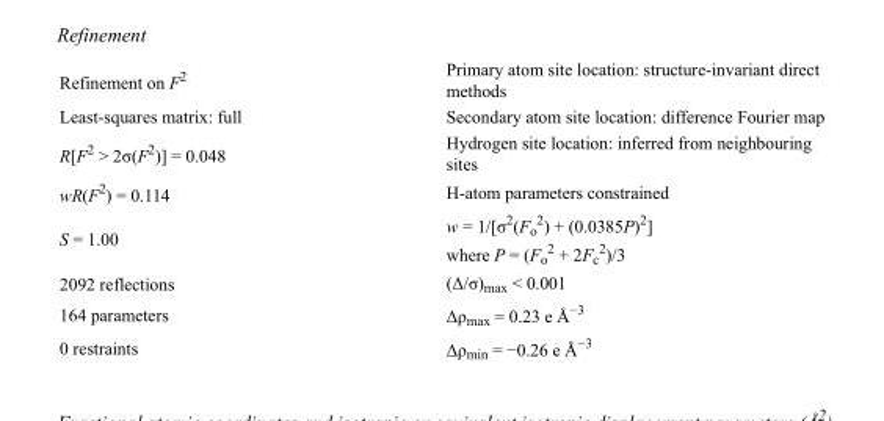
<table><tbody><tr><td>Refinement on F<sup>2</sup></td><td>Primary atom site location: structure-invariant direct methods</td></tr><tr><td>Least-squares matrix: full</td><td>Secondary atom site location: difference Fourier map</td></tr><tr><td>R[F<sup>2</sup> &gt; 2σ(F<sup>2</sup>)] = 0.048</td><td>Hydrogen site location: inferred from neighbouring sites</td></tr><tr><td>wR(F<sup>2</sup>) = 0.114</td><td>H-atom parameters constrained</td></tr><tr><td>S = 1.00</td><td>w = 1/[σ<sup>2</sup>(F<sub>o</sub> <sup>2</sup>) + (0.0385P)<sup>2</sup>] where P = (F<sub>o</sub> <sup>2</sup> + 2F<sub>c</sub> <sup>2</sup>)/3</td></tr><tr><td>2092 reflections</td><td>(Δ/σ)<sub>max</sub> &lt; 0.001</td></tr><tr><td>164 parameters</td><td>Δρ<sub>max</sub> = 0.23 e Å<sup>−3</sup></td></tr><tr><td>0 restraints</td><td>Δρ<sub>min</sub> = −0.26 e Å<sup>−3</sup></td></tr></tbody></table>